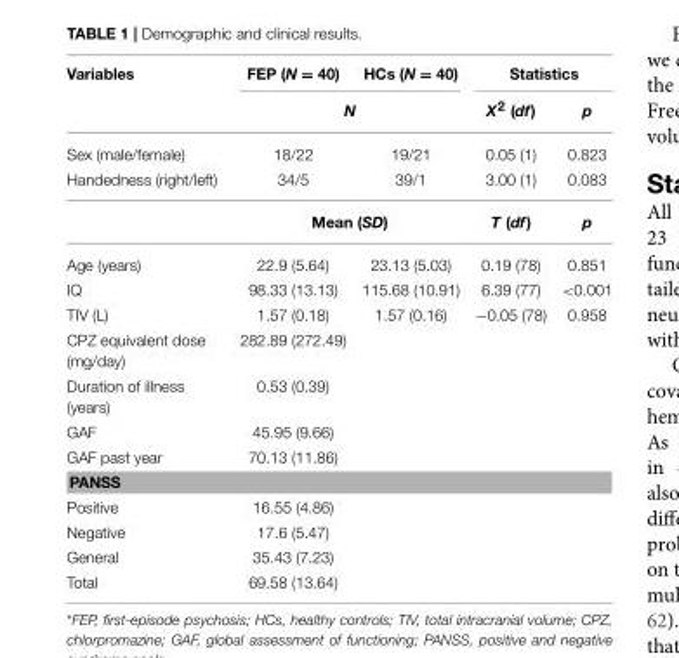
<table><thead><tr><td rowspan="2">Variables</td><td>FEP (N = 40)</td><td>HCs (N = 40)</td><td colspan="2">Statistics</td></tr><tr><td colspan="2">N</td><td>X<sup>2</sup> (df)</td><td>p</td></tr></thead><tbody><tr><td>Sex (male/female)</td><td>18/22</td><td>19/21</td><td>0.05 (1)</td><td>0.823</td></tr><tr><td rowspan="2">Handedness (right/left)</td><td>34/5</td><td>39/1</td><td>3.00 (1)</td><td>0.083</td></tr><tr><td colspan="2">Mean (SD)</td><td>T (df)</td><td>p</td></tr><tr><td>Age (years)</td><td>22.9 (5.64)</td><td>23.13 (5.03)</td><td>0.19 (78)</td><td>0.851</td></tr><tr><td>IQ</td><td>98.33 (13.13)</td><td>115.68 (10.91)</td><td>6.39 (77)</td><td>&lt;0.001</td></tr><tr><td>TIV (L)</td><td>1.57 (0.18)</td><td>1.57 (0.16)</td><td>−0.05 (78)</td><td>0.958</td></tr><tr><td>CPZ equivalent dose (mg/day)</td><td>282.89 (272.49)</td><td></td><td></td><td></td></tr><tr><td>Duration of illness (years)</td><td>0.53 (0.39)</td><td></td><td></td><td></td></tr><tr><td>GAF</td><td>45.95 (9.66)</td><td></td><td></td><td></td></tr><tr><td>GAF past year</td><td>70.13 (11.86)</td><td></td><td></td><td></td></tr><tr><td colspan="5">PANSS</td></tr><tr><td>Positive</td><td>16.55 (4.86)</td><td></td><td></td><td></td></tr><tr><td>Negative</td><td>17.6 (5.47)</td><td></td><td></td><td></td></tr><tr><td>General</td><td>35.43 (7.23)</td><td></td><td></td><td></td></tr><tr><td>Total</td><td>69.58 (13.64)</td><td></td><td></td><td></td></tr></tbody></table>